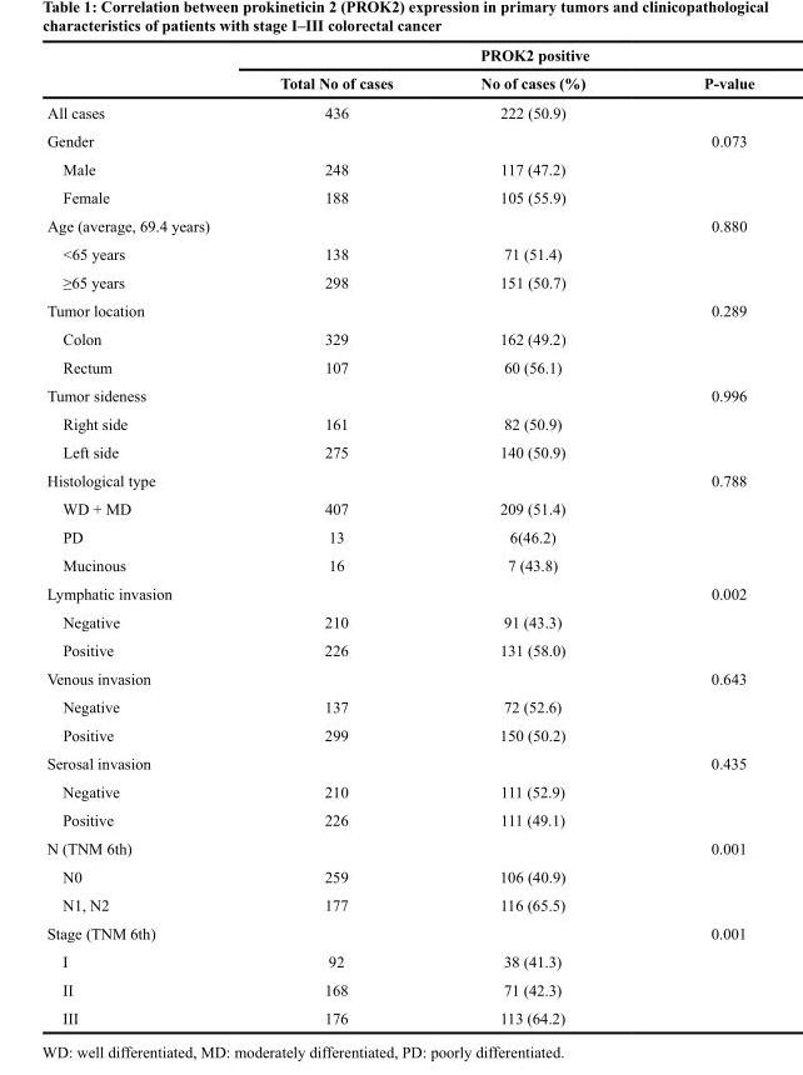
<table><thead><tr><td rowspan="2"></td><td colspan="3">PROK2 positive</td></tr><tr><td>Total No of cases</td><td>No of cases (%)</td><td>P-value</td></tr></thead><tbody><tr><td>All cases</td><td>436</td><td>222 (50.9)</td><td></td></tr><tr><td>Gender</td><td></td><td></td><td>0.073</td></tr><tr><td>Male</td><td>248</td><td>117 (47.2)</td><td></td></tr><tr><td>Female</td><td>188</td><td>105 (55.9)</td><td></td></tr><tr><td>Age (average, 69.4 years)</td><td></td><td></td><td>0.880</td></tr><tr><td>&lt;65 years</td><td>138</td><td>71 (51.4)</td><td></td></tr><tr><td>≥65 years</td><td>298</td><td>151 (50.7)</td><td></td></tr><tr><td>Tumor location</td><td></td><td></td><td>0.289</td></tr><tr><td>Colon</td><td>329</td><td>162 (49.2)</td><td></td></tr><tr><td>Rectum</td><td>107</td><td>60 (56.1)</td><td></td></tr><tr><td>Tumor sideness</td><td></td><td></td><td>0.996</td></tr><tr><td>Right side</td><td>161</td><td>82 (50.9)</td><td></td></tr><tr><td>Left side</td><td>275</td><td>140 (50.9)</td><td></td></tr><tr><td>Histological type</td><td></td><td></td><td>0.788</td></tr><tr><td>WD + MD</td><td>407</td><td>209 (51.4)</td><td></td></tr><tr><td>PD</td><td>13</td><td>6(46.2)</td><td></td></tr><tr><td>Mucinous</td><td>16</td><td>7 (43.8)</td><td></td></tr><tr><td>Lymphatic invasion</td><td></td><td></td><td>0.002</td></tr><tr><td>Negative</td><td>210</td><td>91 (43.3)</td><td></td></tr><tr><td>Positive</td><td>226</td><td>131 (58.0)</td><td></td></tr><tr><td>Venous invasion</td><td></td><td></td><td>0.643</td></tr><tr><td>Negative</td><td>137</td><td>72 (52.6)</td><td></td></tr><tr><td>Positive</td><td>299</td><td>150 (50.2)</td><td></td></tr><tr><td>Serosal invasion</td><td></td><td></td><td>0.435</td></tr><tr><td>Negative</td><td>210</td><td>111 (52.9)</td><td></td></tr><tr><td>Positive</td><td>226</td><td>111 (49.1)</td><td></td></tr><tr><td>N (TNM 6th)</td><td></td><td></td><td>0.001</td></tr><tr><td>N0</td><td>259</td><td>106 (40.9)</td><td></td></tr><tr><td>N1, N2</td><td>177</td><td>116 (65.5)</td><td></td></tr><tr><td>Stage (TNM 6th)</td><td></td><td></td><td>0.001</td></tr><tr><td>I</td><td>92</td><td>38 (41.3)</td><td></td></tr><tr><td>II</td><td>168</td><td>71 (42.3)</td><td></td></tr><tr><td>III</td><td>176</td><td>113 (64.2)</td><td></td></tr></tbody></table>